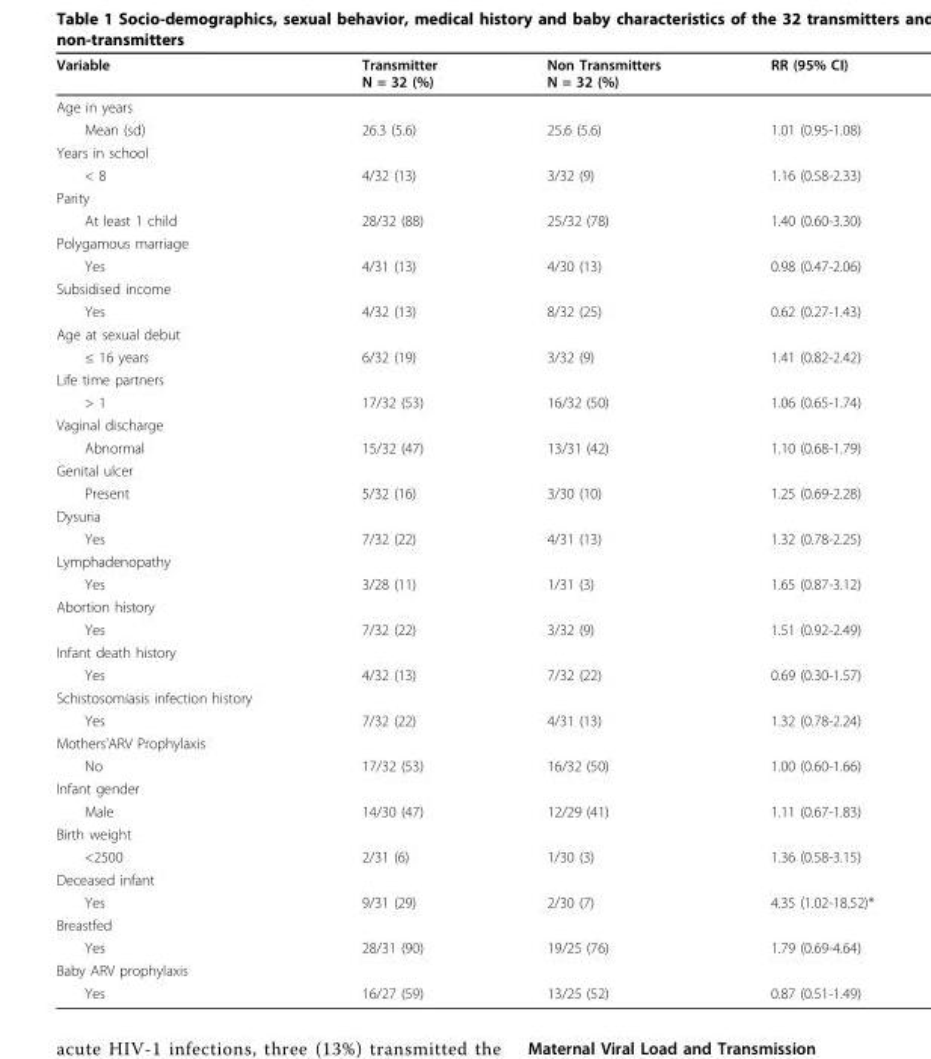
<table><thead><tr><td>Variable</td><td>Transmitter N = 32 (%)</td><td>Non Transmitters N = 32 (%)</td><td>RR (95% CI)</td></tr></thead><tbody><tr><td colspan="4">Age in years</td></tr><tr><td>Mean (sd)</td><td>26.3 (5.6)</td><td>25.6 (5.6)</td><td>1.01 (0.95-1.08)</td></tr><tr><td colspan="4">Years in school</td></tr><tr><td>&lt; 8</td><td>4/32 (13)</td><td>3/32 (9)</td><td>1.16 (0.58-2.33)</td></tr><tr><td colspan="4">Parity</td></tr><tr><td>At least 1 child</td><td>28/32 (88)</td><td>25/32 (78)</td><td>1.40 (0.60-3.30)</td></tr><tr><td colspan="4">Polygamous marriage</td></tr><tr><td>Yes</td><td>4/31 (13)</td><td>4/30 (13)</td><td>0.98 (0.47-2.06)</td></tr><tr><td colspan="4">Subsidised income</td></tr><tr><td>Yes</td><td>4/32 (13)</td><td>8/32 (25)</td><td>0.62 (0.27-1.43)</td></tr><tr><td colspan="4">Age at sexual debut</td></tr><tr><td>≤ 16 years</td><td>6/32 (19)</td><td>3/32 (9)</td><td>1.41 (0.82-2.42)</td></tr><tr><td colspan="4">Life time partners</td></tr><tr><td>&gt; 1</td><td>17/32 (53)</td><td>16/32 (50)</td><td>1.06 (0.65-1.74)</td></tr><tr><td colspan="4">Vaginal discharge</td></tr><tr><td>Abnormal</td><td>15/32 (47)</td><td>13/31 (42)</td><td>1.10 (0.68-1.79)</td></tr><tr><td colspan="4">Genital ulcer</td></tr><tr><td>Present</td><td>5/32 (16)</td><td>3/30 (10)</td><td>1.25 (0.69-2.28)</td></tr><tr><td colspan="4">Dysuria</td></tr><tr><td>Yes</td><td>7/32 (22)</td><td>4/31 (13)</td><td>1.32 (0.78-2.25)</td></tr><tr><td colspan="4">Lymphadenopathy</td></tr><tr><td>Yes</td><td>3/28 (11)</td><td>1/31 (3)</td><td>1.65 (0.87-3.12)</td></tr><tr><td colspan="4">Abortion history</td></tr><tr><td>Yes</td><td>7/32 (22)</td><td>3/32 (9)</td><td>1.51 (0.92-2.49)</td></tr><tr><td colspan="4">Infant death history</td></tr><tr><td>Yes</td><td>4/32 (13)</td><td>7/32 (22)</td><td>0.69 (0.30-1.57)</td></tr><tr><td colspan="4">Schistosomiasis infection history</td></tr><tr><td>Yes</td><td>7/32 (22)</td><td>4/31 (13)</td><td>1.32 (0.78-2.24)</td></tr><tr><td colspan="4">Mothers’ARV Prophylaxis</td></tr><tr><td>No</td><td>17/32 (53)</td><td>16/32 (50)</td><td>1.00 (0.60-1.66)</td></tr><tr><td colspan="4">Infant gender</td></tr><tr><td>Male</td><td>14/30 (47)</td><td>12/29 (41)</td><td>1.11 (0.67-1.83)</td></tr><tr><td colspan="4">Birth weight</td></tr><tr><td>&lt;2500</td><td>2/31 (6)</td><td>1/30 (3)</td><td>1.36 (0.58-3.15)</td></tr><tr><td colspan="4">Deceased infant</td></tr><tr><td>Yes</td><td>9/31 (29)</td><td>2/30 (7)</td><td>4.35 (1.02-18.52)*</td></tr><tr><td colspan="4">Breastfed</td></tr><tr><td>Yes</td><td>28/31 (90)</td><td>19/25 (76)</td><td>1.79 (0.69-4.64)</td></tr><tr><td colspan="4">Baby ARV prophylaxis</td></tr><tr><td>Yes</td><td>16/27 (59)</td><td>13/25 (52)</td><td>0.87 (0.51-1.49)</td></tr></tbody></table>